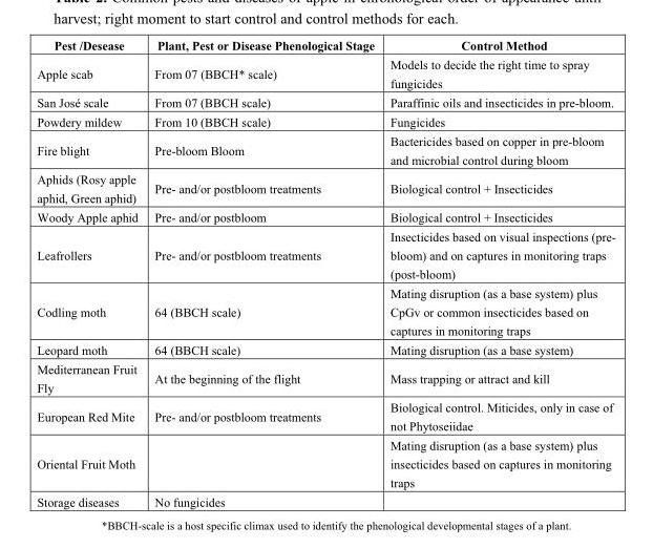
<table><thead><tr><td>Pest /Desease</td><td>Plant, Pest or Disease Phenological Stage</td><td>Control Method</td></tr></thead><tbody><tr><td>Apple scab</td><td>From 07 (BBCH* scale)</td><td>Models to decide the right time to spray fungicides</td></tr><tr><td>San José scale</td><td>From 07 (BBCH scale)</td><td>Paraffinic oils and insecticides in pre-bloom.</td></tr><tr><td>Powdery mildew</td><td>From 10 (BBCH scale)</td><td>Fungicides</td></tr><tr><td>Fire blight</td><td>Pre-bloom Bloom</td><td>Bactericides based on copper in pre-bloom and microbial control during bloom</td></tr><tr><td>Aphids (Rosy apple aphid, Green aphid)</td><td>Pre- and/or postbloom treatments</td><td>Biological control + Insecticides</td></tr><tr><td>Woody Apple aphid</td><td>Pre- and/or postbloom</td><td>Biological control + Insecticides</td></tr><tr><td>Leafrollers</td><td>Pre- and/or postbloom treatments</td><td>Insecticides based on visual inspections (pre- bloom) and on captures in monitoring traps (post-bloom)</td></tr><tr><td>Codling moth</td><td>64 (BBCH scale)</td><td>Mating disruption (as a base system) plus CpGv or common insecticides based on captures in monitoring traps</td></tr><tr><td>Leopard moth</td><td>64 (BBCH scale)</td><td>Mating disruption (as a base system)</td></tr><tr><td>Mediterranean Fruit Fly</td><td>At the beginning of the flight</td><td>Mass trapping or attract and kill</td></tr><tr><td>European Red Mite</td><td>Pre- and/or postbloom treatments</td><td>Biological control. Miticides, only in case of not Phytoseiidae</td></tr><tr><td>Oriental Fruit Moth</td><td></td><td>Mating disruption (as a base system) plus insecticides based on captures in monitoring traps</td></tr><tr><td>Storage diseases</td><td>No fungicides</td><td></td></tr></tbody></table>